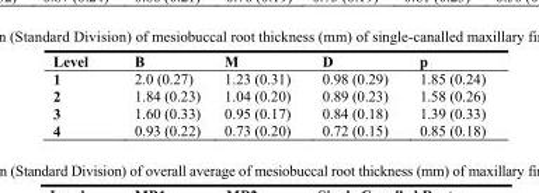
<table><thead><tr><td>Level</td><td>B</td><td>M</td><td>D</td><td>p</td></tr></thead><tbody><tr><td>1</td><td>2.0 (0.27)</td><td>1.23 (0.31)</td><td>0.98 (0.29)</td><td>1.85 (0.24)</td></tr><tr><td>2</td><td>1.84 (0.23)</td><td>1.04 (0.20)</td><td>0.89 (0.23)</td><td>1.58 (0.26)</td></tr><tr><td>3</td><td>1.60 (0.33)</td><td>0.95 (0.17)</td><td>0.84 (0.18)</td><td>1.39 (0.33)</td></tr><tr><td>4</td><td>0.93 (0.22)</td><td>0.73 (0.20)</td><td>0.72 (0.15)</td><td>0.85 (0.18)</td></tr></tbody></table>